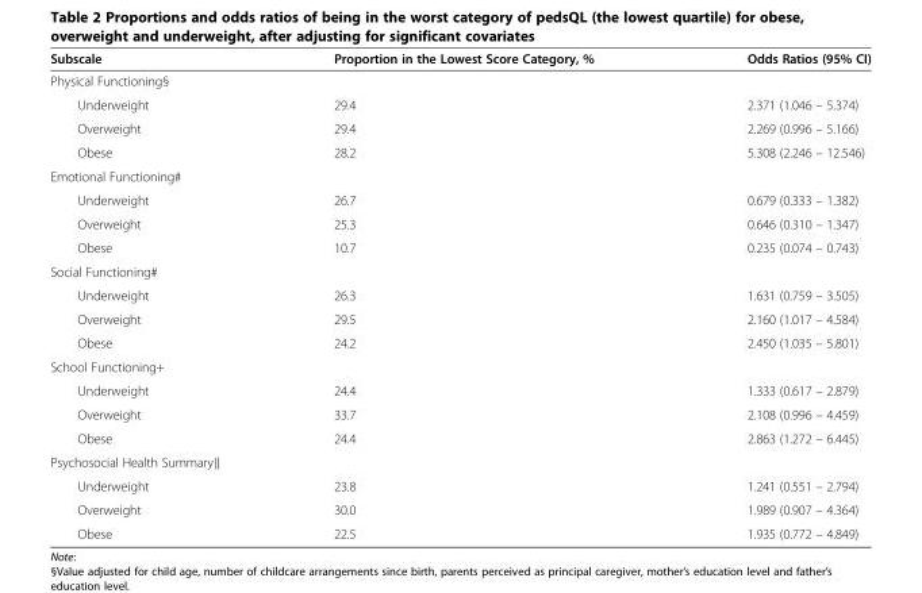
<table><thead><tr><td>Subscale</td><td>Proportion in the Lowest Score Category, %</td><td>Odds Ratios (95% CI)</td></tr></thead><tbody><tr><td colspan="3">Physical Functioning§</td></tr><tr><td>Underweight</td><td>29.4</td><td>2.371 (1.046 – 5.374)</td></tr><tr><td>Overweight</td><td>29.4</td><td>2.269 (0.996 – 5.166)</td></tr><tr><td>Obese</td><td>28.2</td><td>5.308 (2.246 – 12.546)</td></tr><tr><td colspan="3">Emotional Functioning#</td></tr><tr><td>Underweight</td><td>26.7</td><td>0.679 (0.333 – 1.382)</td></tr><tr><td>Overweight</td><td>25.3</td><td>0.646 (0.310 – 1.347)</td></tr><tr><td>Obese</td><td>10.7</td><td>0.235 (0.074 – 0.743)</td></tr><tr><td colspan="3">Social Functioning#</td></tr><tr><td>Underweight</td><td>26.3</td><td>1.631 (0.759 – 3.505)</td></tr><tr><td>Overweight</td><td>29.5</td><td>2.160 (1.017 – 4.584)</td></tr><tr><td>Obese</td><td>24.2</td><td>2.450 (1.035 – 5.801)</td></tr><tr><td colspan="3">School Functioning+</td></tr><tr><td>Underweight</td><td>24.4</td><td>1.333 (0.617 – 2.879)</td></tr><tr><td>Overweight</td><td>33.7</td><td>2.108 (0.996 – 4.459)</td></tr><tr><td>Obese</td><td>24.4</td><td>2.863 (1.272 – 6.445)</td></tr><tr><td colspan="3">Psychosocial Health Summary∥</td></tr><tr><td>Underweight</td><td>23.8</td><td>1.241 (0.551 – 2.794)</td></tr><tr><td>Overweight</td><td>30.0</td><td>1.989 (0.907 – 4.364)</td></tr><tr><td>Obese</td><td>22.5</td><td>1.935 (0.772 – 4.849)</td></tr></tbody></table>